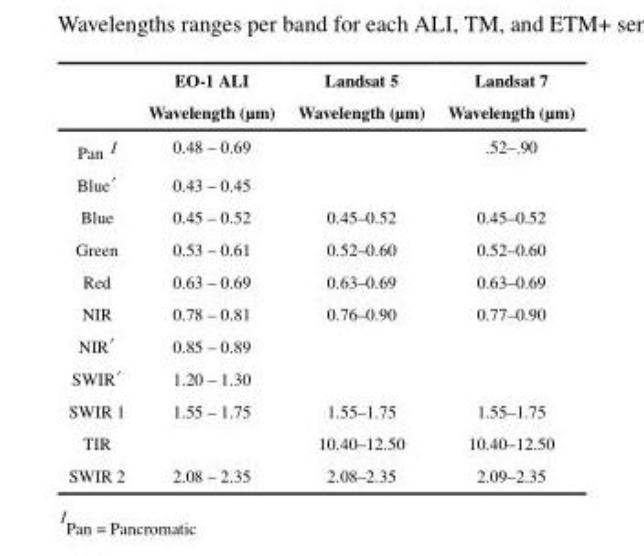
<table><thead><tr><td rowspan="2"></td><td rowspan="2">EO-1 ALI Wavelength (μm)</td><td rowspan="2">Landsat 5 Wavelength (μm)</td><td rowspan="2">Landsat 7 Wavelength (μm)</td></tr><tr></tr></thead><tbody><tr><td>Pan 1</td><td>0.48 – 0.69</td><td></td><td>.52–.90</td></tr><tr><td>Blue′</td><td>0.43 – 0.45</td><td></td><td></td></tr><tr><td>Blue</td><td>0.45 – 0.52</td><td>0.45–0.52</td><td>0.45–0.52</td></tr><tr><td>Green</td><td>0.53 – 0.61</td><td>0.52–0.60</td><td>0.52–0.60</td></tr><tr><td>Red</td><td>0.63 – 0.69</td><td>0.63–0.69</td><td>0.63–0.69</td></tr><tr><td>NIR</td><td>0.78 – 0.81</td><td>0.76–0.90</td><td>0.77–0.90</td></tr><tr><td>NIR′</td><td>0.85 – 0.89</td><td></td><td></td></tr><tr><td>SWIR′</td><td>1.20 – 1.30</td><td></td><td></td></tr><tr><td>SWIR 1</td><td>1.55 – 1.75</td><td>1.55–1.75</td><td>1.55–1.75</td></tr><tr><td>TIR</td><td></td><td>10.40–12.50</td><td>10.40–12.50</td></tr><tr><td>SWIR 2</td><td>2.08 – 2.35</td><td>2.08–2.35</td><td>2.09–2.35</td></tr></tbody></table>